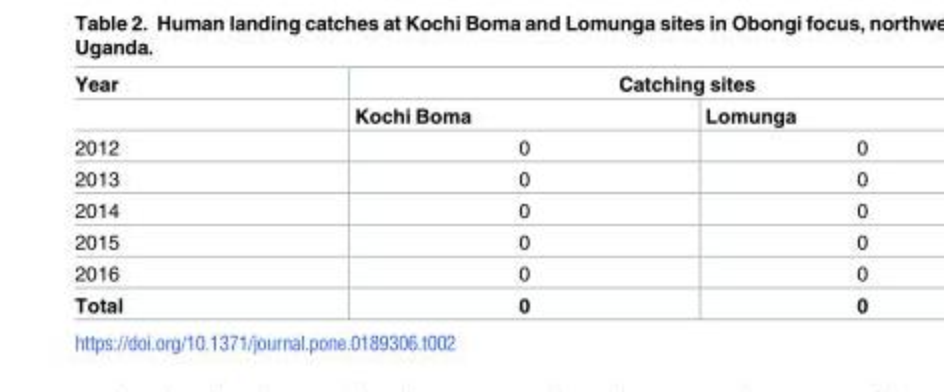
<table><thead><tr><td rowspan="2">Year</td><td colspan="2">Catching sites</td></tr><tr><td>Kochi Boma</td><td>Lomunga</td></tr></thead><tbody><tr><td>2012</td><td>0</td><td>0</td></tr><tr><td>2013</td><td>0</td><td>0</td></tr><tr><td>2014</td><td>0</td><td>0</td></tr><tr><td>2015</td><td>0</td><td>0</td></tr><tr><td>2016</td><td>0</td><td>0</td></tr><tr><td>Total</td><td>0</td><td>0</td></tr></tbody></table>